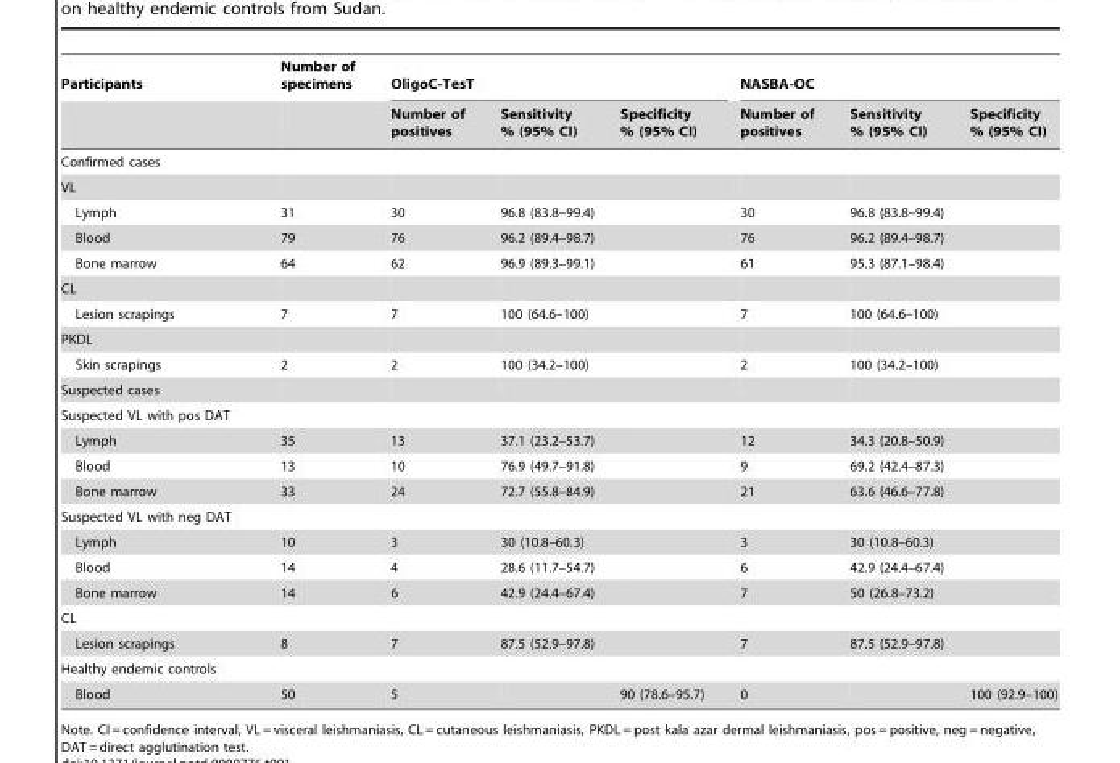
<table><thead><tr><td rowspan="2">Participants</td><td rowspan="2">Number of specimens</td><td colspan="3">OligoC-TesT</td><td colspan="3">NASBA-OC</td></tr><tr><td>Number of positives</td><td>Sensitivity % (95% CI)</td><td>Specificity % (95% CI)</td><td>Number of positives</td><td>Sensitivity % (95% CI)</td><td>Specificity % (95% CI)</td></tr></thead><tbody><tr><td colspan="8">Confirmed cases</td></tr><tr><td colspan="8">VL</td></tr><tr><td>Lymph</td><td>31</td><td>30</td><td>96.8 (83.8–99.4)</td><td></td><td>30</td><td>96.8 (83.8–99.4)</td><td></td></tr><tr><td>Blood</td><td>79</td><td>76</td><td>96.2 (89.4–98.7)</td><td></td><td>76</td><td>96.2 (89.4–98.7)</td><td></td></tr><tr><td>Bone marrow</td><td>64</td><td>62</td><td>96.9 (89.3–99.1)</td><td></td><td>61</td><td>95.3 (87.1–98.4)</td><td></td></tr><tr><td colspan="8">CL</td></tr><tr><td>Lesion scrapings</td><td>7</td><td>7</td><td>100 (64.6–100)</td><td></td><td>7</td><td>100 (64.6–100)</td><td></td></tr><tr><td colspan="8">PKDL</td></tr><tr><td>Skin scrapings</td><td>2</td><td>2</td><td>100 (34.2–100)</td><td></td><td>2</td><td>100 (34.2–100)</td><td></td></tr><tr><td colspan="8">Suspected cases</td></tr><tr><td colspan="8">Suspected VL with pos DAT</td></tr><tr><td>Lymph</td><td>35</td><td>13</td><td>37.1 (23.2–53.7)</td><td></td><td>12</td><td>34.3 (20.8–50.9)</td><td></td></tr><tr><td>Blood</td><td>13</td><td>10</td><td>76.9 (49.7–91.8)</td><td></td><td>9</td><td>69.2 (42.4–87.3)</td><td></td></tr><tr><td>Bone marrow</td><td>33</td><td>24</td><td>72.7 (55.8–84.9)</td><td></td><td>21</td><td>63.6 (46.6–77.8)</td><td></td></tr><tr><td colspan="8">Suspected VL with neg DAT</td></tr><tr><td>Lymph</td><td>10</td><td>3</td><td>30 (10.8–60.3)</td><td></td><td>3</td><td>30 (10.8–60.3)</td><td></td></tr><tr><td>Blood</td><td>14</td><td>4</td><td>28.6 (11.7–54.7)</td><td></td><td>6</td><td>42.9 (24.4–67.4)</td><td></td></tr><tr><td>Bone marrow</td><td>14</td><td>6</td><td>42.9 (24.4–67.4)</td><td></td><td>7</td><td>50 (26.8–73.2)</td><td></td></tr><tr><td colspan="8">CL</td></tr><tr><td>Lesion scrapings</td><td>8</td><td>7</td><td>87.5 (52.9–97.8)</td><td></td><td>7</td><td>87.5 (52.9–97.8)</td><td></td></tr><tr><td colspan="8">Healthy endemic controls</td></tr><tr><td>Blood</td><td>50</td><td>5</td><td></td><td>90 (78.6–95.7)</td><td>0</td><td></td><td>100 (92.9–100)</td></tr></tbody></table>